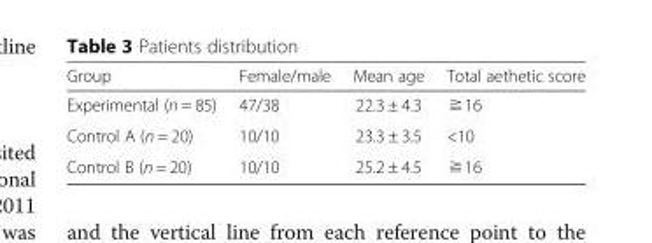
<table><thead><tr><td>Group</td><td>Female/male</td><td>Mean age</td><td>Total aethetic score</td></tr></thead><tbody><tr><td>Experimental (n = 85)</td><td>47/38</td><td>22.3 ± 4.3</td><td>≧16</td></tr><tr><td>Control A (n = 20)</td><td>10/10</td><td>23.3 ± 3.5</td><td>&lt;10</td></tr><tr><td>Control B (n = 20)</td><td>10/10</td><td>25.2 ± 4.5</td><td>≧16</td></tr></tbody></table>